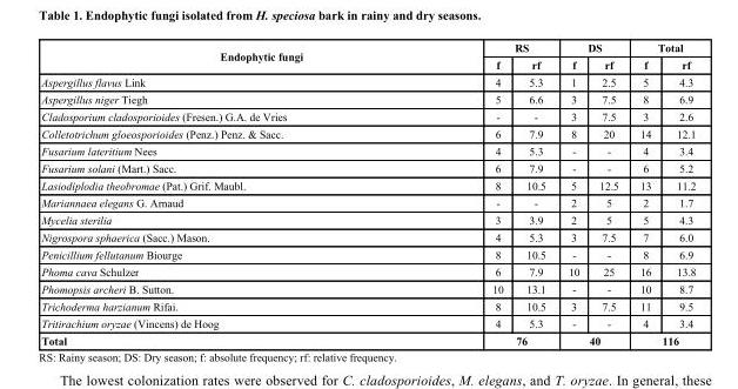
<table><thead><tr><td rowspan="2">Endophytic fungi</td><td colspan="2">RS</td><td colspan="2">DS</td><td colspan="2">Total</td></tr><tr><td>f</td><td>rf</td><td>f</td><td>rf</td><td>f</td><td>rf</td></tr></thead><tbody><tr><td>Aspergillus flavus Link</td><td>4</td><td>5.3</td><td>1</td><td>2.5</td><td>5</td><td>4.3</td></tr><tr><td>Aspergillus niger Tiegh</td><td>5</td><td>6.6</td><td>3</td><td>7.5</td><td>8</td><td>6.9</td></tr><tr><td>Cladosporium cladosporioides (Fresen.) G.A. de Vries</td><td>-</td><td>-</td><td>3</td><td>7.5</td><td>3</td><td>2.6</td></tr><tr><td>Colletotrichum gloeosporioides (Penz.) Penz. &amp; Sacc.</td><td>6</td><td>7.9</td><td>8</td><td>20</td><td>14</td><td>12.1</td></tr><tr><td>Fusarium lateritium Nees</td><td>4</td><td>5.3</td><td>-</td><td>-</td><td>4</td><td>3.4</td></tr><tr><td>Fusarium solani (Mart.) Sacc.</td><td>6</td><td>7.9</td><td>-</td><td>-</td><td>6</td><td>5.2</td></tr><tr><td>Lasiodiplodia theobromae (Pat.) Grif. Maubl.</td><td>8</td><td>10.5</td><td>5</td><td>12.5</td><td>13</td><td>11.2</td></tr><tr><td>Mariannaea elegans G. Arnaud</td><td>-</td><td>-</td><td>2</td><td>5</td><td>2</td><td>1.7</td></tr><tr><td>Mycelia sterilia</td><td>3</td><td>3.9</td><td>2</td><td>5</td><td>5</td><td>4.3</td></tr><tr><td>Nigrospora sphaerica (Sacc.) Mason.</td><td>4</td><td>5.3</td><td>3</td><td>7.5</td><td>7</td><td>6.0</td></tr><tr><td>Penicillium fellutanum Biourge</td><td>8</td><td>10.5</td><td>-</td><td>-</td><td>8</td><td>6.9</td></tr><tr><td>Phoma cava Schulzer</td><td>6</td><td>7.9</td><td>10</td><td>25</td><td>16</td><td>13.8</td></tr><tr><td>Phomopsis archeri B. Sutton.</td><td>10</td><td>13.1</td><td>-</td><td>-</td><td>10</td><td>8.7</td></tr><tr><td>Trichoderma harzianum Rifai.</td><td>8</td><td>10.5</td><td>3</td><td>7.5</td><td>11</td><td>9.5</td></tr><tr><td>Tritirachium oryzae (Vincens) de Hoog</td><td>4</td><td>5.3</td><td>-</td><td>-</td><td>4</td><td>3.4</td></tr><tr><td>Total</td><td colspan="2">76</td><td colspan="2">40</td><td colspan="2">116</td></tr></tbody></table>